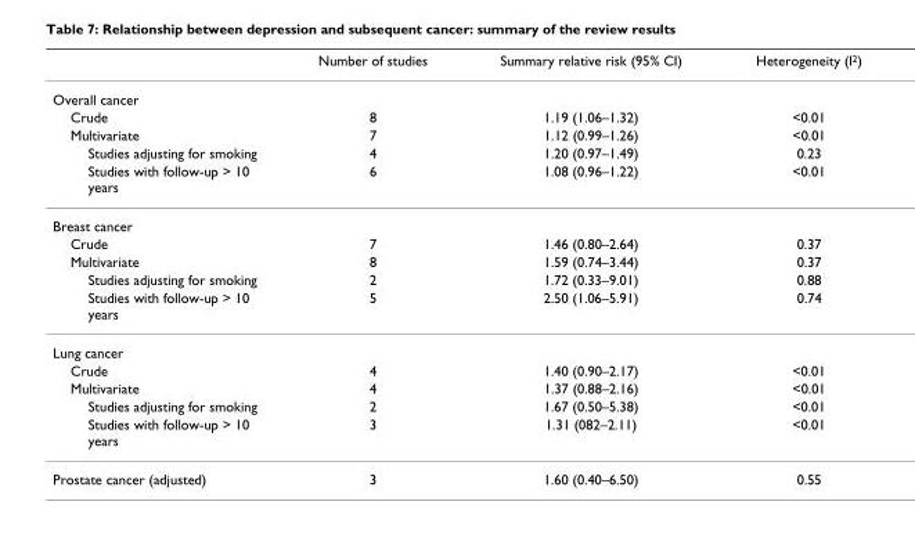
<table><thead><tr><td></td><td>Number of studies</td><td>Summary relative risk (95% CI)</td><td>Heterogeneity (I<sup>2</sup>)</td></tr></thead><tbody><tr><td colspan="4">Overall cancer</td></tr><tr><td>Crude</td><td>8</td><td>1.19 (1.06–1.32)</td><td>&lt;0.01</td></tr><tr><td>Multivariate</td><td>7</td><td>1.12 (0.99–1.26)</td><td>&lt;0.01</td></tr><tr><td>Studies adjusting for smoking</td><td>4</td><td>1.20 (0.97–1.49)</td><td>0.23</td></tr><tr><td>Studies with follow-up &gt; 10 years</td><td>6</td><td>1.08 (0.96–1.22)</td><td>&lt;0.01</td></tr><tr><td colspan="4">Breast cancer</td></tr><tr><td>Crude</td><td>7</td><td>1.46 (0.80–2.64)</td><td>0.37</td></tr><tr><td>Multivariate</td><td>8</td><td>1.59 (0.74–3.44)</td><td>0.37</td></tr><tr><td>Studies adjusting for smoking</td><td>2</td><td>1.72 (0.33–9.01)</td><td>0.88</td></tr><tr><td>Studies with follow-up &gt; 10 years</td><td>5</td><td>2.50 (1.06–5.91)</td><td>0.74</td></tr><tr><td colspan="4">Lung cancer</td></tr><tr><td>Crude</td><td>4</td><td>1.40 (0.90–2.17)</td><td>&lt;0.01</td></tr><tr><td>Multivariate</td><td>4</td><td>1.37 (0.88–2.16)</td><td>&lt;0.01</td></tr><tr><td>Studies adjusting for smoking</td><td>2</td><td>1.67 (0.50–5.38)</td><td>&lt;0.01</td></tr><tr><td>Studies with follow-up &gt; 10 years</td><td>3</td><td>1.31 (082–2.11)</td><td>&lt;0.01</td></tr><tr><td>Prostate cancer (adjusted)</td><td>3</td><td>1.60 (0.40–6.50)</td><td>0.55</td></tr></tbody></table>